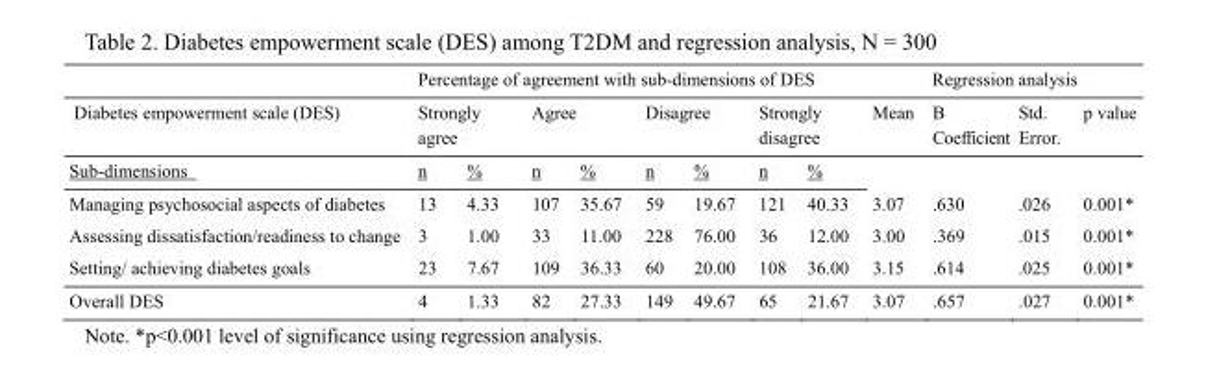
<table><thead><tr><td rowspan="3">Diabetes empowerment scale (DES) Sub-dimensions</td><td colspan="9">Percentage of agreement with sub-dimensions of DES</td><td colspan="3">Regression analysis</td></tr><tr><td colspan="2">Strongly agree</td><td colspan="2">Agree</td><td colspan="2">Disagree</td><td colspan="2">Strongly disagree</td><td rowspan="2">Mean</td><td rowspan="2">B Coefficient</td><td rowspan="2">Std. Error.</td><td rowspan="2">p value</td></tr><tr><td>n</td><td>%</td><td>n</td><td>%</td><td>n</td><td>%</td><td>n</td><td>%</td></tr></thead><tbody><tr><td>Managing psychosocial aspects of diabetes</td><td>13</td><td>4.33</td><td>107</td><td>35.67</td><td>59</td><td>19.67</td><td>121</td><td>40.33</td><td>3.07</td><td>.630</td><td>.026</td><td>0.001*</td></tr><tr><td>Assessing dissatisfaction/readiness to change</td><td>3</td><td>1.00</td><td>33</td><td>11.00</td><td>228</td><td>76.00</td><td>36</td><td>12.00</td><td>3.00</td><td>.369</td><td>.015</td><td>0.001*</td></tr><tr><td>Setting/ achieving diabetes goals</td><td>23</td><td>7.67</td><td>109</td><td>36.33</td><td>60</td><td>20.00</td><td>108</td><td>36.00</td><td>3.15</td><td>.614</td><td>.025</td><td>0.001*</td></tr><tr><td>Overall DES</td><td>4</td><td>1.33</td><td>82</td><td>27.33</td><td>149</td><td>49.67</td><td>65</td><td>21.67</td><td>3.07</td><td>.657</td><td>.027</td><td>0.001*</td></tr></tbody></table>